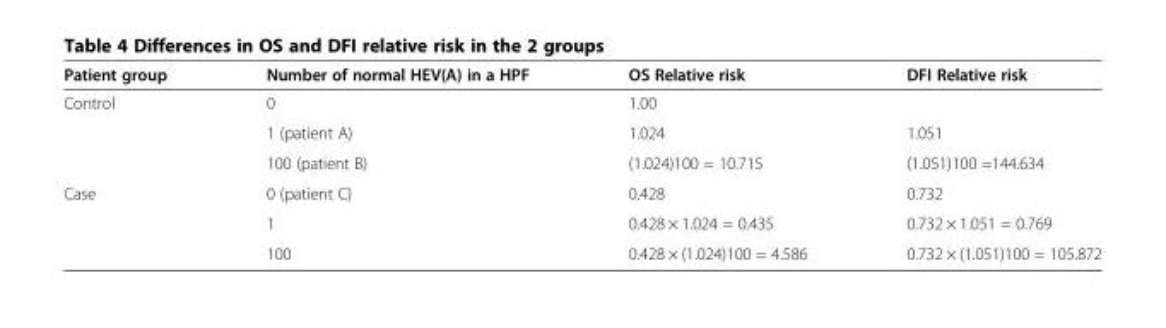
<table><thead><tr><td>Patient group</td><td>Number of normal HEV(A) in a HPF</td><td>OS Relative risk</td><td>DFI Relative risk</td></tr></thead><tbody><tr><td rowspan="3">Control</td><td>0</td><td>1.00</td><td></td></tr><tr><td>1 (patient A)</td><td>1.024</td><td>1.051</td></tr><tr><td>100 (patient B)</td><td>(1.024)100 = 10.715</td><td>(1.051)100 =144.634</td></tr><tr><td rowspan="3">Case</td><td>0 (patient C)</td><td>0.428</td><td>0.732</td></tr><tr><td>1</td><td>0.428 × 1.024 = 0.435</td><td>0.732 × 1.051 = 0.769</td></tr><tr><td>100</td><td>0.428 × (1.024)100 = 4.586</td><td>0.732 × (1.051)100 = 105.872</td></tr></tbody></table>